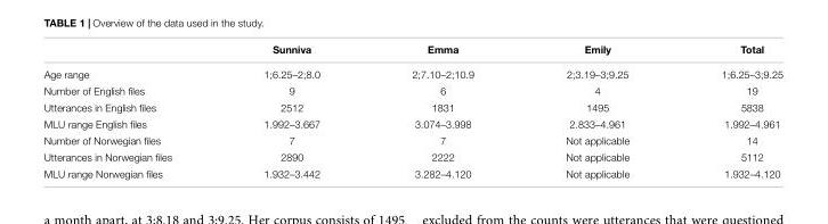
<table><thead><tr><td></td><td>Sunniva</td><td>Emma</td><td>Emily</td><td>Total</td></tr></thead><tbody><tr><td>Age range</td><td>1;6.25–2;8.0</td><td>2;7.10–2;10.9</td><td>2;3.19–3;9.25</td><td>1;6.25–3;9.25</td></tr><tr><td>Number of English files</td><td>9</td><td>6</td><td>4</td><td>19</td></tr><tr><td>Utterances in English files</td><td>2512</td><td>1831</td><td>1495</td><td>5838</td></tr><tr><td>MLU range English files</td><td>1.992–3.667</td><td>3.074–3.998</td><td>2.833–4.961</td><td>1.992–4.961</td></tr><tr><td>Number of Norwegian files</td><td>7</td><td>7</td><td>Not applicable</td><td>14</td></tr><tr><td>Utterances in Norwegian files</td><td>2890</td><td>2222</td><td>Not applicable</td><td>5112</td></tr><tr><td>MLU range Norwegian files</td><td>1.932–3.442</td><td>3.282–4.120</td><td>Not applicable</td><td>1.932–4.120</td></tr></tbody></table>